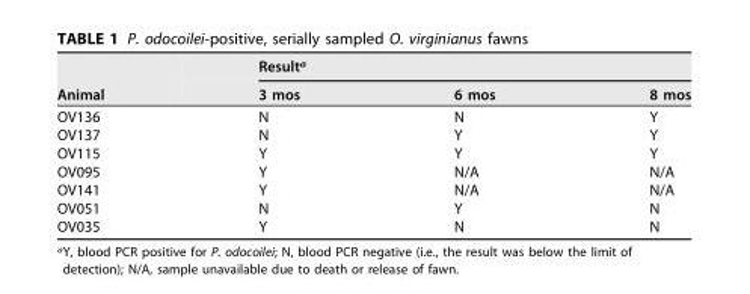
<table><thead><tr><td rowspan="2">Animal</td><td colspan="3">Result<sup>a</sup></td></tr><tr><td>3 mos</td><td>6 mos</td><td>8 mos</td></tr></thead><tbody><tr><td>OV136</td><td>N</td><td>N</td><td>Y</td></tr><tr><td>OV137</td><td>N</td><td>Y</td><td>Y</td></tr><tr><td>OV115</td><td>Y</td><td>Y</td><td>Y</td></tr><tr><td>OV095</td><td>Y</td><td>N/A</td><td>N/A</td></tr><tr><td>OV141</td><td>Y</td><td>N/A</td><td>N/A</td></tr><tr><td>OV051</td><td>N</td><td>Y</td><td>N</td></tr><tr><td>OV035</td><td>Y</td><td>N</td><td>N</td></tr></tbody></table>